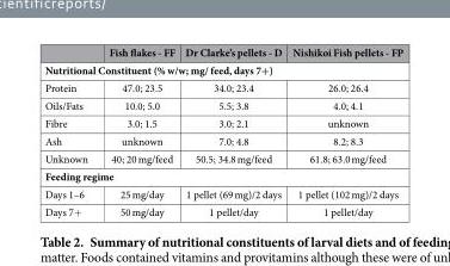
<table><thead><tr><td></td><td>Fish flakes - FF</td><td>Dr Clarke’s pellets - D</td><td>Nishikoi Fish pellets - FP</td></tr></thead><tbody><tr><td colspan="4">Nutritional Constituent (% w/w; mg/ feed, days 7+ )</td></tr><tr><td>Protein</td><td>47.0; 23.5</td><td>34.0; 23.4</td><td>26.0; 26.4</td></tr><tr><td>Oils/Fats</td><td>10.0; 5.0</td><td>5.5; 3.8</td><td>4.0; 4.1</td></tr><tr><td>Fibre</td><td>3.0; 1.5</td><td>3.0; 2.1</td><td>unknown</td></tr><tr><td>Ash</td><td>unknown</td><td>7.0; 4.8</td><td>8.2; 8.3</td></tr><tr><td>Unknown</td><td>40; 20 mg/feed</td><td>50.5; 34.8 mg/feed</td><td>61.8; 63.0 mg/feed</td></tr><tr><td colspan="4">Feeding regime</td></tr><tr><td>Days 1–6</td><td>25 mg/day</td><td>1 pellet (69 mg)/2 days</td><td>1 pellet (102 mg)/2 days</td></tr><tr><td>Days 7+</td><td>50 mg/day</td><td>1 pellet/day</td><td>1 pellet/day</td></tr></tbody></table>